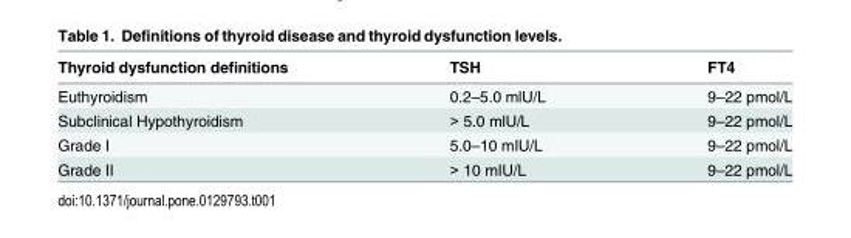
<table><thead><tr><td>Thyroid dysfunction definitions</td><td>TSH</td><td>FT4</td></tr></thead><tbody><tr><td>Euthyroidism</td><td>0.2–5.0 mlU/L</td><td>9–22 pmol/L</td></tr><tr><td>Subclinical Hypothyroidism</td><td>&gt; 5.0 mlU/L</td><td>9–22 pmol/L</td></tr><tr><td>Grade I</td><td>5.0–10 mIU/L</td><td>9–22 pmol/L</td></tr><tr><td>Grade II</td><td>&gt; 10 mIU/L</td><td>9–22 pmol/L</td></tr></tbody></table>